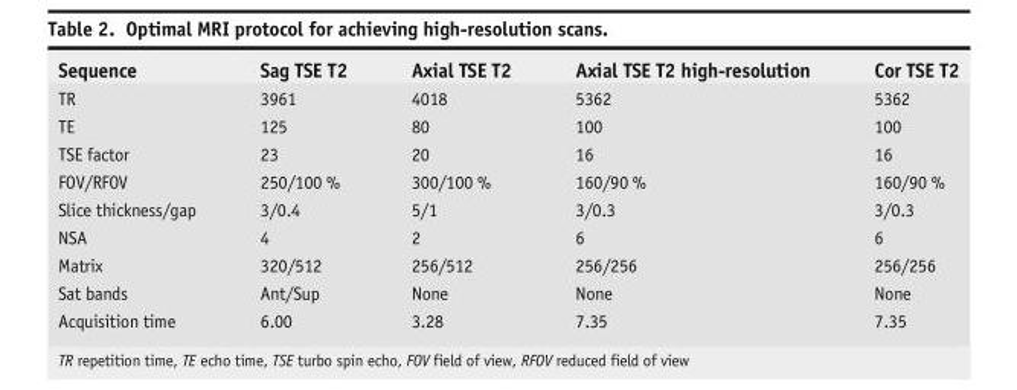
<table><thead><tr><td>Sequence</td><td>Sag TSE T2</td><td>Axial TSE T2</td><td>Axial TSE T2 high-resolution</td><td>Cor TSE T2</td></tr></thead><tbody><tr><td>TR</td><td>3961</td><td>4018</td><td>5362</td><td>5362</td></tr><tr><td>TE</td><td>125</td><td>80</td><td>100</td><td>100</td></tr><tr><td>TSE factor</td><td>23</td><td>20</td><td>16</td><td>16</td></tr><tr><td>FOV/RFOV</td><td>250/100 %</td><td>300/100 %</td><td>160/90 %</td><td>160/90 %</td></tr><tr><td>Slice thickness/gap</td><td>3/0.4</td><td>5/1</td><td>3/0.3</td><td>3/0.3</td></tr><tr><td>NSA</td><td>4</td><td>2</td><td>6</td><td>6</td></tr><tr><td>Matrix</td><td>320/512</td><td>256/512</td><td>256/256</td><td>256/256</td></tr><tr><td>Sat bands</td><td>Ant/Sup</td><td>None</td><td>None</td><td>None</td></tr><tr><td>Acquisition time</td><td>6.00</td><td>3.28</td><td>7.35</td><td>7.35</td></tr></tbody></table>